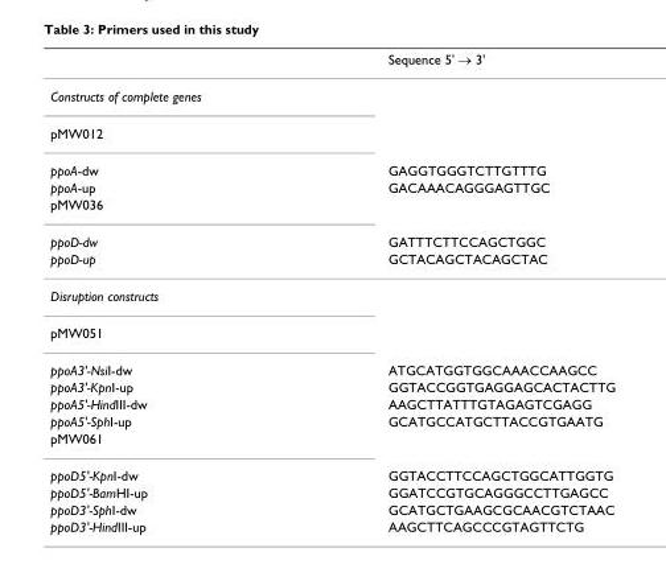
<table><thead><tr><td></td><td>Sequence 5&#x27; → 3&#x27;</td></tr></thead><tbody><tr><td colspan="2">Constructs of complete genes</td></tr><tr><td colspan="2">pMW012</td></tr><tr><td>ppoA-dw</td><td>GAGGTGGGTCTTGTTTG</td></tr><tr><td>ppoA-up</td><td>GACAAACAGGGAGTTGC</td></tr><tr><td colspan="2">pMW036</td></tr><tr><td>ppoD-dw</td><td>GATTTCTTCCAGCTGGC</td></tr><tr><td>ppoD-up</td><td>GCTACAGCTACAGCTAC</td></tr><tr><td colspan="2">Disruption constructs</td></tr><tr><td colspan="2">pMW051</td></tr><tr><td>ppoA3&#x27;-NsiI-dw</td><td>ATGCATGGTGGCAAACCAAGCC</td></tr><tr><td>ppoA3&#x27;-KpnI-up</td><td>GGTACCGGTGAGGAGCACTACTTG</td></tr><tr><td>ppoA5&#x27;-HindIII-dw</td><td>AAGCTTATTTGTAGAGTCGAGG</td></tr><tr><td>ppoA5&#x27;-SphI-up</td><td>GCATGCCATGCTTACCGTGAATG</td></tr><tr><td colspan="2">pMW061</td></tr><tr><td>ppoD5&#x27;-KpnI-dw</td><td>GGTACCTTCCAGCTGGCATTGGTG</td></tr><tr><td>ppoD5&#x27;-BamHI-up</td><td>GGATCCGTGCAGGGCCTTGAGCC</td></tr><tr><td>ppoD3&#x27;-SphI-dw</td><td>GCATGCTGAAGCGCAACGTCTAAC</td></tr><tr><td>ppoD3&#x27;-HindIII-up</td><td>AAGCTTCAGCCCGTAGTTCTG</td></tr></tbody></table>